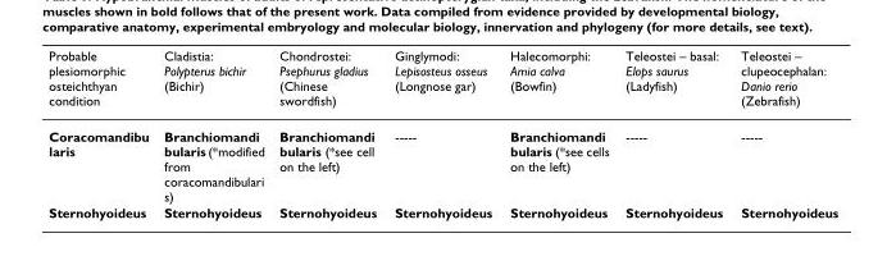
<table><thead><tr><td>Probable plesiomorphic osteichthyan condition</td><td>Cladistia: Polypterus bichir (Bichir)</td><td>Chondrostei: Psephurus gladius (Chinese swordfish)</td><td>Ginglymodi: Lepisosteus osseus (Longnose gar)</td><td>Halecomorphi: Amia calva (Bowfin)</td><td>Teleostei – basal: Elops saurus (Ladyfish)</td><td>Teleostei – clupeocephalan: Danio rerio (Zebrafish)</td></tr></thead><tbody><tr><td>Coracomandibu laris</td><td>Branchiomandi bularis (*modified from coracomandibulari s)</td><td>Branchiomandi bularis (*see cell on the left)</td><td>-----</td><td>Branchiomandi bularis (*see cells on the left)</td><td>-----</td><td>-----</td></tr><tr><td>Sternohyoideus</td><td>Sternohyoideus</td><td>Sternohyoideus</td><td>Sternohyoideus</td><td>Sternohyoideus</td><td>Sternohyoideus</td><td>Sternohyoideus</td></tr></tbody></table>